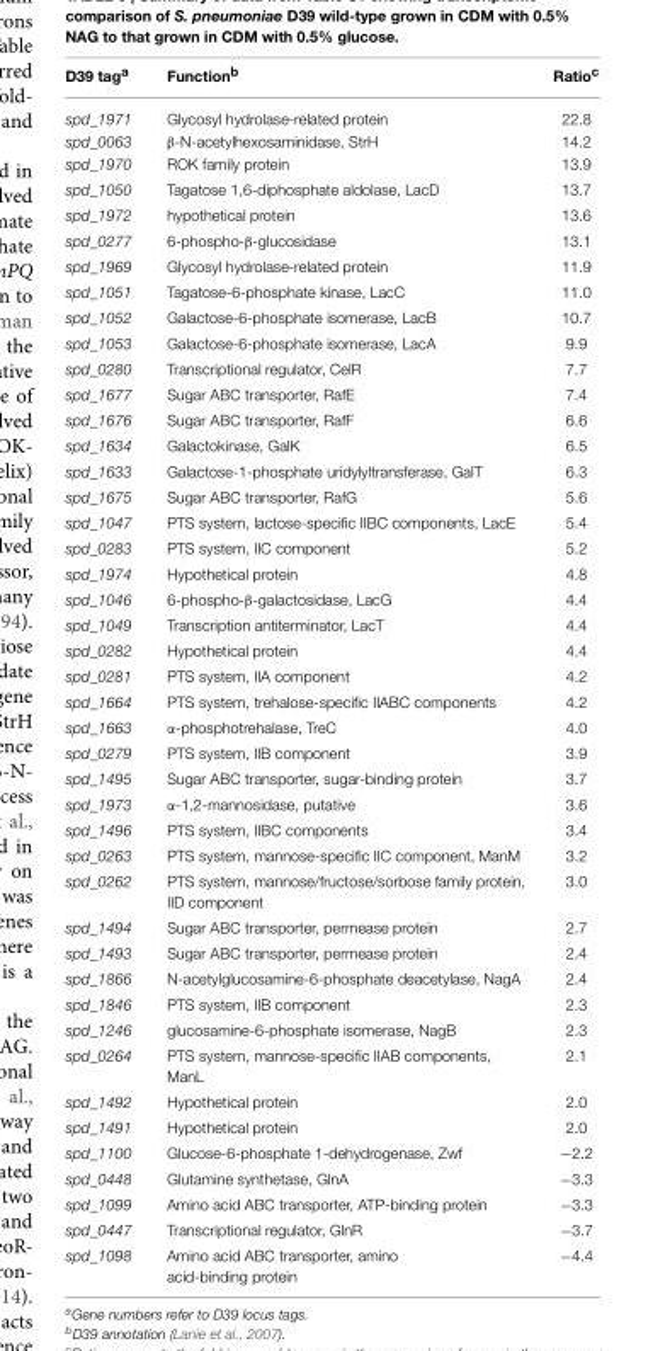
<table><thead><tr><td>D39 tag<sup>a</sup></td><td>Function<sup>b</sup></td><td>Ratio<sup>c</sup></td></tr></thead><tbody><tr><td>spd_1971</td><td>Glycosyl hydrolase-related protein</td><td>22.8</td></tr><tr><td>spd_0063</td><td>β-N-acetylhexosaminidase, StrH</td><td>14.2</td></tr><tr><td>spd_1970</td><td>ROK family protein</td><td>13.9</td></tr><tr><td>spd_1050</td><td>Tagatose 1,6-diphosphate aldolase, LacD</td><td>13.7</td></tr><tr><td>spd_1972</td><td>hypothetical protein</td><td>13.6</td></tr><tr><td>spd_0277</td><td>6-phospho-β-glucosidase</td><td>13.1</td></tr><tr><td>spd_1969</td><td>Glycosyl hydrolase-related protein</td><td>11.9</td></tr><tr><td>spd_1051</td><td>Tagatose-6-phosphate kinase, LacC</td><td>11.0</td></tr><tr><td>spd_1052</td><td>Galactose-6-phosphate isomerase, LacB</td><td>10.7</td></tr><tr><td>spd_1053</td><td>Galactose-6-phosphate isomerase, LacA</td><td>9.9</td></tr><tr><td>spd_0280</td><td>Transcriptional regulator, CelR</td><td>7.7</td></tr><tr><td>spd_1677</td><td>Sugar ABC transporter, RafE</td><td>7.4</td></tr><tr><td>spd_1676</td><td>Sugar ABC transporter, RafF</td><td>6.6</td></tr><tr><td>spd_1634</td><td>Galactokinase, GalK</td><td>6.5</td></tr><tr><td>spd_1633</td><td>Galactose-1-phosphate uridylyltransferase, GalT</td><td>6.3</td></tr><tr><td>spd_1675</td><td>Sugar ABC transporter, RafG</td><td>5.6</td></tr><tr><td>spd_1047</td><td>PTS system, lactose-specific IIBC components, LacE</td><td>5.4</td></tr><tr><td>spd_0283</td><td>PTS system, IIC component</td><td>5.2</td></tr><tr><td>spd_1974</td><td>Hypothetical protein</td><td>4.8</td></tr><tr><td>spd_1046</td><td>6-phospho-β-galactosidase, LacG</td><td>4.4</td></tr><tr><td>spd_1049</td><td>Transcription antiterminator, LacT</td><td>4.4</td></tr><tr><td>spd_0282</td><td>Hypothetical protein</td><td>4.4</td></tr><tr><td>spd_0281</td><td>PTS system, IIA component</td><td>4.2</td></tr><tr><td>spd_1664</td><td>PTS system, trehalose-specific IIABC components</td><td>4.2</td></tr><tr><td>spd_1663</td><td>α-phosphotrehalase, TreC</td><td>4.0</td></tr><tr><td>spd_0279</td><td>PTS system, IIB component</td><td>3.9</td></tr><tr><td>spd_1495</td><td>Sugar ABC transporter, sugar-binding protein</td><td>3.7</td></tr><tr><td>spd_1973</td><td>α-1,2-mannosidase, putative</td><td>3.6</td></tr><tr><td>spd_1496</td><td>PTS system, IIBC components</td><td>3.4</td></tr><tr><td>spd_0263</td><td>PTS system, mannose-specific IIC component, ManM</td><td>3.2</td></tr><tr><td>spd_0262</td><td>PTS system, mannose/fructose/sorbose family protein, IID component</td><td>3.0</td></tr><tr><td>spd_1494</td><td>Sugar ABC transporter, permease protein</td><td>2.7</td></tr><tr><td>spd_1493</td><td>Sugar ABC transporter, permease protein</td><td>2.4</td></tr><tr><td>spd_1866</td><td>N-acetylglucosamine-6-phosphate deacetylase, NagA</td><td>2.4</td></tr><tr><td>spd_1846</td><td>PTS system, IIB component</td><td>2.3</td></tr><tr><td>spd_1246</td><td>glucosamine-6-phosphate isomerase, NagB</td><td>2.3</td></tr><tr><td>spd_0264</td><td>PTS system, mannose-specific IIAB components, ManL</td><td>2.1</td></tr><tr><td>spd_1492</td><td>Hypothetical protein</td><td>2.0</td></tr><tr><td>spd_1491</td><td>Hypothetical protein</td><td>2.0</td></tr><tr><td>spd_1100</td><td>Glucose-6-phosphate 1-dehydrogenase, Zwf</td><td>−2.2</td></tr><tr><td>spd_0448</td><td>Glutamine synthetase, GlnA</td><td>−3.3</td></tr><tr><td>spd_1099</td><td>Amino acid ABC transporter, ATP-binding protein</td><td>−3.3</td></tr><tr><td>spd_0447</td><td>Transcriptional regulator, GlnR</td><td>−3.7</td></tr><tr><td>spd_1098</td><td>Amino acid ABC transporter, amino acid-binding protein</td><td>−4.4</td></tr></tbody></table>